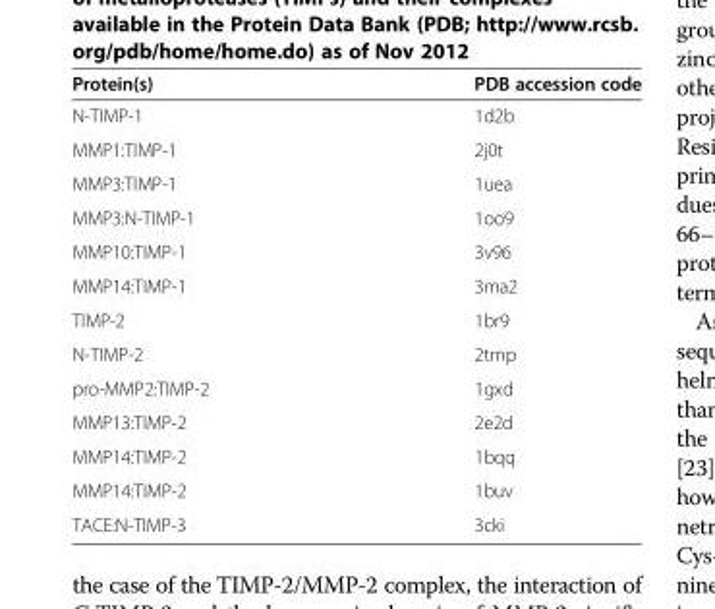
<table><thead><tr><td>Protein(s)</td><td>PDB accession code</td></tr></thead><tbody><tr><td>N-TIMP-1</td><td>1d2b</td></tr><tr><td>MMP1:TIMP-1</td><td>2j0t</td></tr><tr><td>MMP3:TIMP-1</td><td>1uea</td></tr><tr><td>MMP3:N-TIMP-1</td><td>1oo9</td></tr><tr><td>MMP10:TIMP-1</td><td>3v96</td></tr><tr><td>MMP14:TIMP-1</td><td>3ma2</td></tr><tr><td>TIMP-2</td><td>1br9</td></tr><tr><td>N-TIMP-2</td><td>2tmp</td></tr><tr><td>pro-MMP2:TIMP-2</td><td>1gxd</td></tr><tr><td>MMP13:TIMP-2</td><td>2e2d</td></tr><tr><td>MMP14:TIMP-2</td><td>1bqq</td></tr><tr><td>MMP14:TIMP-2</td><td>1buv</td></tr><tr><td>TACE:N-TIMP-3</td><td>3cki</td></tr></tbody></table>